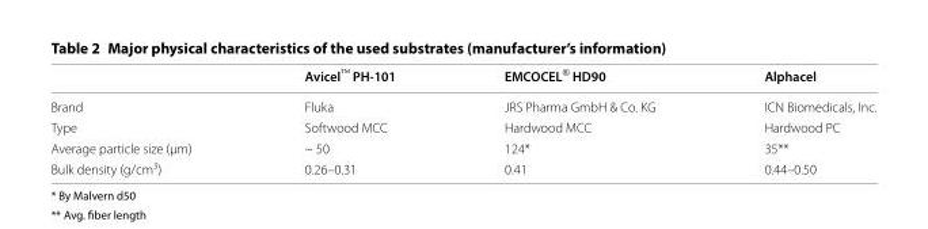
<table><thead><tr><td></td><td>Avicel™ PH‑101</td><td>EMCOCEL<sup>®</sup> HD90</td><td>Alphacel</td></tr></thead><tbody><tr><td>Brand</td><td>Fluka</td><td>JRS Pharma GmbH &amp; Co. KG</td><td>ICN Biomedicals, Inc.</td></tr><tr><td>Type</td><td>Softwood MCC</td><td>Hardwood MCC</td><td>Hardwood PC</td></tr><tr><td>Average particle size (µm)</td><td>~ 50</td><td>124*</td><td>35**</td></tr><tr><td>Bulk density (g/cm<sup>3</sup>)</td><td>0.26–0.31</td><td>0.41</td><td>0.44–0.50</td></tr></tbody></table>